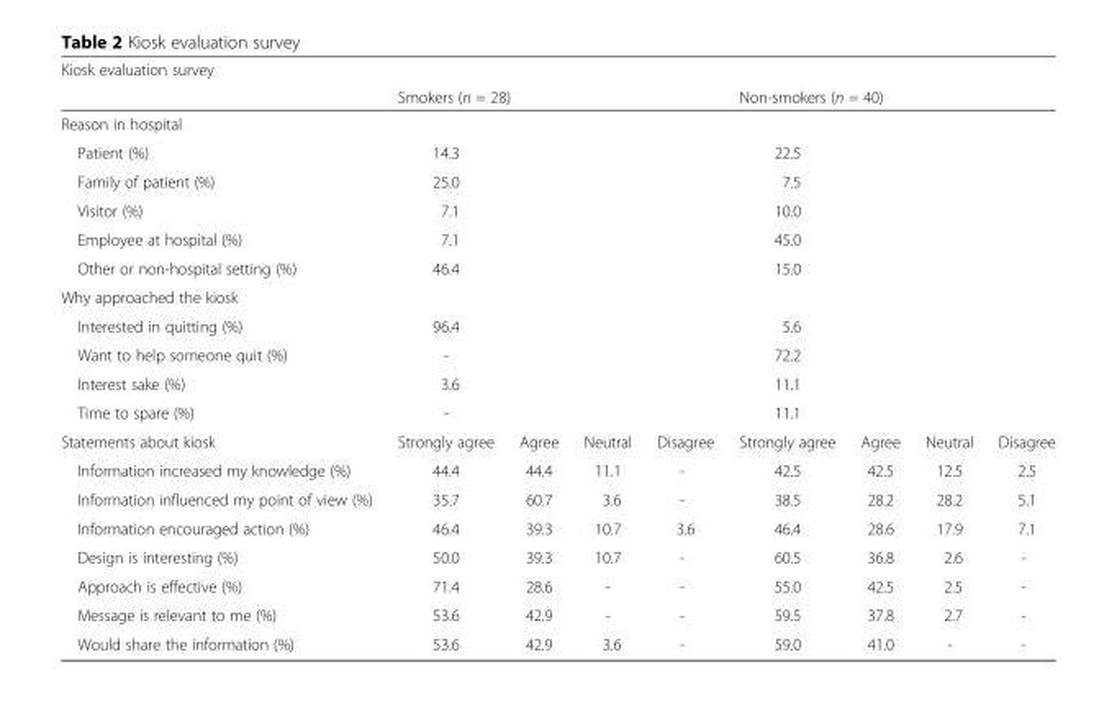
<table><thead><tr><td colspan="9">Kiosk evaluation survey</td></tr><tr><td></td><td colspan="4">Smokers (n = 28)</td><td colspan="4">Non-smokers (n = 40)</td></tr></thead><tbody><tr><td colspan="9">Reason in hospital</td></tr><tr><td>Patient (%)</td><td colspan="4">14.3</td><td colspan="4">22.5</td></tr><tr><td>Family of patient (%)</td><td colspan="4">25.0</td><td colspan="4">7.5</td></tr><tr><td>Visitor (%)</td><td colspan="4">7.1</td><td colspan="4">10.0</td></tr><tr><td>Employee at hospital (%)</td><td colspan="4">7.1</td><td colspan="4">45.0</td></tr><tr><td>Other or non-hospital setting (%)</td><td colspan="4">46.4</td><td colspan="4">15.0</td></tr><tr><td colspan="9">Why approached the kiosk</td></tr><tr><td>Interested in quitting (%)</td><td colspan="4">96.4</td><td colspan="4">5.6</td></tr><tr><td>Want to help someone quit (%)</td><td colspan="4">-</td><td colspan="4">72.2</td></tr><tr><td>Interest sake (%)</td><td colspan="4">3.6</td><td colspan="4">11.1</td></tr><tr><td>Time to spare (%)</td><td colspan="4">-</td><td colspan="4">11.1</td></tr><tr><td>Statements about kiosk</td><td>Strongly agree</td><td>Agree</td><td>Neutral</td><td>Disagree</td><td>Strongly agree</td><td>Agree</td><td>Neutral</td><td>Disagree</td></tr><tr><td>Information increased my knowledge (%)</td><td>44.4</td><td>44.4</td><td>11.1</td><td>-</td><td>42.5</td><td>42.5</td><td>12.5</td><td>2.5</td></tr><tr><td>Information influenced my point of view (%)</td><td>35.7</td><td>60.7</td><td>3.6</td><td>-</td><td>38.5</td><td>28.2</td><td>28.2</td><td>5.1</td></tr><tr><td>Information encouraged action (%)</td><td>46.4</td><td>39.3</td><td>10.7</td><td>3.6</td><td>46.4</td><td>28.6</td><td>17.9</td><td>7.1</td></tr><tr><td>Design is interesting (%)</td><td>50.0</td><td>39.3</td><td>10.7</td><td>-</td><td>60.5</td><td>36.8</td><td>2.6</td><td>-</td></tr><tr><td>Approach is effective (%)</td><td>71.4</td><td>28.6</td><td>-</td><td>-</td><td>55.0</td><td>42.5</td><td>2.5</td><td>-</td></tr><tr><td>Message is relevant to me (%)</td><td>53.6</td><td>42.9</td><td>-</td><td>-</td><td>59.5</td><td>37.8</td><td>2.7</td><td>-</td></tr><tr><td>Would share the information (%)</td><td>53.6</td><td>42.9</td><td>3.6</td><td>-</td><td>59.0</td><td>41.0</td><td>-</td><td>-</td></tr></tbody></table>